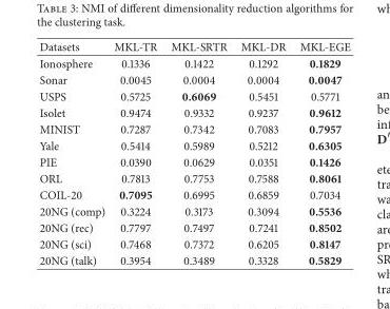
<table><thead><tr><td>Datasets</td><td>MKL-TR</td><td>MKL-SRTR</td><td>MKL-DR</td><td>MKL-EGE</td></tr></thead><tbody><tr><td>Ionosphere</td><td>0.1336</td><td>0.1422</td><td>0.1292</td><td>0.1829</td></tr><tr><td>Sonar</td><td>0.0045</td><td>0.0004</td><td>0.0004</td><td>0.0047</td></tr><tr><td>USPS</td><td>0.5725</td><td>0.6069</td><td>0.5451</td><td>0.5771</td></tr><tr><td>Isolet</td><td>0.9474</td><td>0.9332</td><td>0.9237</td><td>0.9612</td></tr><tr><td>MINIST</td><td>0.7287</td><td>0.7342</td><td>0.7083</td><td>0.7957</td></tr><tr><td>Yale</td><td>0.5414</td><td>0.5989</td><td>0.5212</td><td>0.6305</td></tr><tr><td>PIE</td><td>0.0390</td><td>0.0629</td><td>0.0351</td><td>0.1426</td></tr><tr><td>ORL</td><td>0.7813</td><td>0.7753</td><td>0.7588</td><td>0.8061</td></tr><tr><td>COIL-20</td><td>0.7095</td><td>0.6995</td><td>0.6859</td><td>0.7034</td></tr><tr><td>20NG (comp)</td><td>0.3224</td><td>0.3173</td><td>0.3094</td><td>0.5536</td></tr><tr><td>20NG (rec)</td><td>0.7797</td><td>0.7497</td><td>0.7241</td><td>0.8502</td></tr><tr><td>20NG (sci)</td><td>0.7468</td><td>0.7372</td><td>0.6205</td><td>0.8147</td></tr><tr><td>20NG (talk)</td><td>0.3954</td><td>0.3489</td><td>0.3328</td><td>0.5829</td></tr></tbody></table>